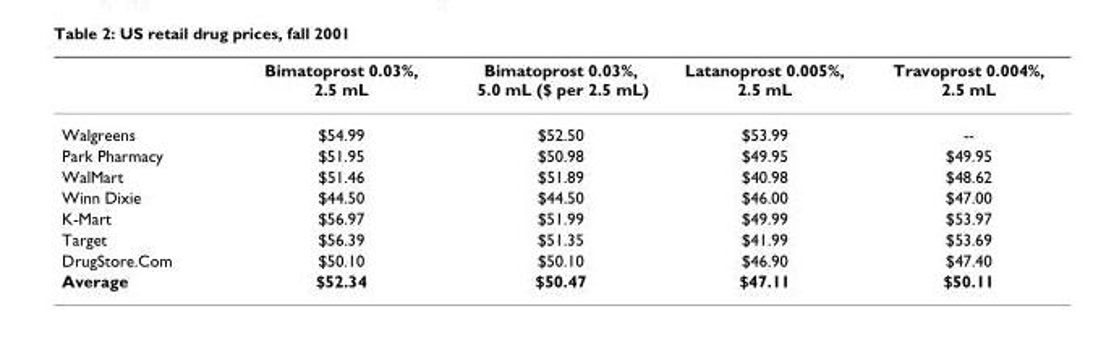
<table><thead><tr><td></td><td>Bimatoprost 0.03%, 2.5 mL</td><td>Bimatoprost 0.03%, 5.0 mL ($ per 2.5 mL)</td><td>Latanoprost 0.005%, 2.5 mL</td><td>Travoprost 0.004%, 2.5 mL</td></tr></thead><tbody><tr><td>Walgreens</td><td>$54.99</td><td>$52.50</td><td>$53.99</td><td>--</td></tr><tr><td>Park Pharmacy</td><td>$51.95</td><td>$50.98</td><td>$49.95</td><td>$49.95</td></tr><tr><td>WalMart</td><td>$51.46</td><td>$51.89</td><td>$40.98</td><td>$48.62</td></tr><tr><td>Winn Dixie</td><td>$44.50</td><td>$44.50</td><td>$46.00</td><td>$47.00</td></tr><tr><td>K-Mart</td><td>$56.97</td><td>$51.99</td><td>$49.99</td><td>$53.97</td></tr><tr><td>Target</td><td>$56.39</td><td>$51.35</td><td>$41.99</td><td>$53.69</td></tr><tr><td>DrugStore.Com</td><td>$50.10</td><td>$50.10</td><td>$46.90</td><td>$47.40</td></tr><tr><td>Average</td><td>$52.34</td><td>$50.47</td><td>$47.11</td><td>$50.11</td></tr></tbody></table>